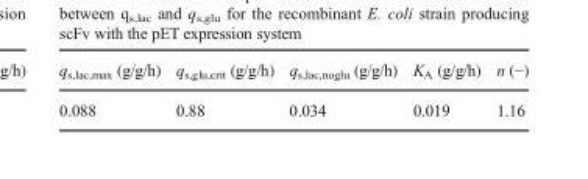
<table><thead><tr><td>q<sub>s,lac,max</sub> (g/g/h)</td><td>q<sub>s,glu,crit</sub> (g/g/h)</td><td>q<sub>s,lac,noglu</sub> (g/g/h)</td><td>K<sub>A</sub> (g/g/h)</td><td>n (−)</td></tr></thead><tbody><tr><td>0.088</td><td>0.88</td><td>0.034</td><td>0.019</td><td>1.16</td></tr></tbody></table>